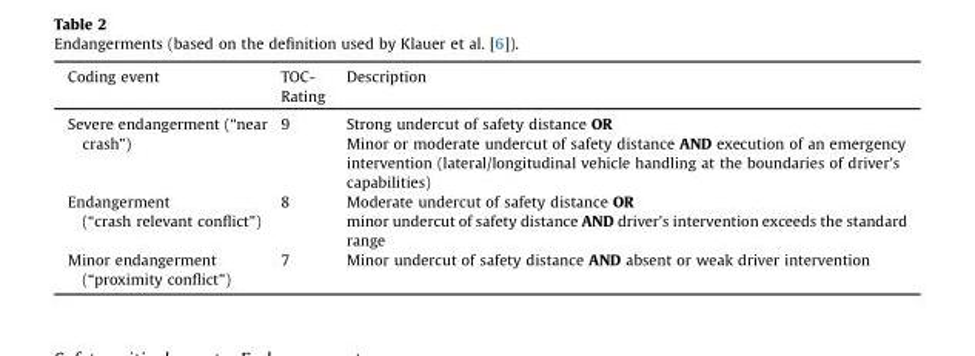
<table><thead><tr><td>Coding event</td><td>TOC- Rating</td><td>Description</td></tr></thead><tbody><tr><td>Severe endangerment (“near crash”)</td><td>9</td><td>Strong undercut of safety distance OR Minor or moderate undercut of safety distance AND execution of an emergency intervention (lateral/longitudinal vehicle handling at the boundaries of driver’s capabilities)</td></tr><tr><td>Endangerment (“crash relevant conflict”)</td><td>8</td><td>Moderate undercut of safety distance OR minor undercut of safety distance AND driver’s intervention exceeds the standard range</td></tr><tr><td>Minor endangerment (“proximity conflict”)</td><td>7</td><td>Minor undercut of safety distance AND absent or weak driver intervention</td></tr></tbody></table>